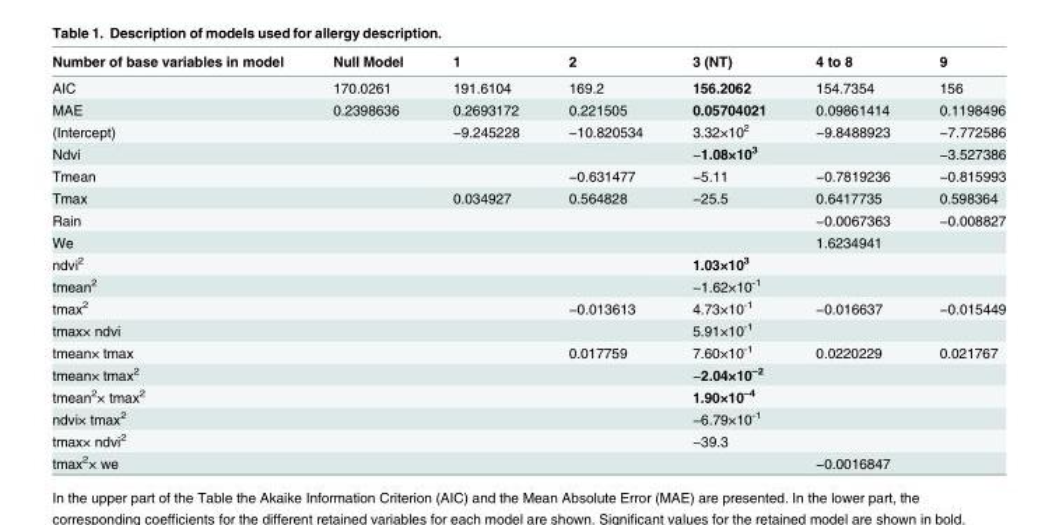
<table><thead><tr><td>Number of base variables in model</td><td>Null Model</td><td>1</td><td>2</td><td>3 (NT)</td><td>4 to 8</td><td>9</td></tr></thead><tbody><tr><td>AIC</td><td>170.0261</td><td>191.6104</td><td>169.2</td><td>156.2062</td><td>154.7354</td><td>156</td></tr><tr><td>MAE</td><td>0.2398636</td><td>0.2693172</td><td>0.221505</td><td>0.05704021</td><td>0.09861414</td><td>0.1198496</td></tr><tr><td>(Intercept)</td><td></td><td>−9.245228</td><td>−10.820534</td><td>3.32×10<sup>2</sup></td><td>−9.8488923</td><td>−7.772586</td></tr><tr><td>Ndvi</td><td></td><td></td><td></td><td>−1.08×10<sup>3</sup></td><td></td><td>−3.527386</td></tr><tr><td>Tmean</td><td></td><td></td><td>−0.631477</td><td>−5.11</td><td>−0.7819236</td><td>−0.815993</td></tr><tr><td>Tmax</td><td></td><td>0.034927</td><td>0.564828</td><td>−25.5</td><td>0.6417735</td><td>0.598364</td></tr><tr><td>Rain</td><td></td><td></td><td></td><td></td><td>−0.0067363</td><td>−0.008827</td></tr><tr><td>We</td><td></td><td></td><td></td><td></td><td>1.6234941</td><td></td></tr><tr><td>ndvi<sup>2</sup></td><td></td><td></td><td></td><td>1.03×10<sup>3</sup></td><td></td><td></td></tr><tr><td>tmean<sup>2</sup></td><td></td><td></td><td></td><td>−1.62×10<sup>-1</sup></td><td></td><td></td></tr><tr><td>tmax<sup>2</sup></td><td></td><td></td><td>−0.013613</td><td>4.73×10<sup>-1</sup></td><td>−0.016637</td><td>−0.015449</td></tr><tr><td>tmax× ndvi</td><td></td><td></td><td></td><td>5.91×10<sup>-1</sup></td><td></td><td></td></tr><tr><td>tmean× tmax</td><td></td><td></td><td>0.017759</td><td>7.60×10<sup>-1</sup></td><td>0.0220229</td><td>0.021767</td></tr><tr><td>tmean× tmax<sup>2</sup></td><td></td><td></td><td></td><td>−2.04×10<sup>–2</sup></td><td></td><td></td></tr><tr><td>tmean<sup>2</sup>× tmax<sup>2</sup></td><td></td><td></td><td></td><td>1.90×10<sup>–4</sup></td><td></td><td></td></tr><tr><td>ndvi× tmax<sup>2</sup></td><td></td><td></td><td></td><td>−6.79×10<sup>-1</sup></td><td></td><td></td></tr><tr><td>tmax× ndvi<sup>2</sup></td><td></td><td></td><td></td><td>−39.3</td><td></td><td></td></tr><tr><td>tmax<sup>2</sup>× we</td><td></td><td></td><td></td><td></td><td>−0.0016847</td><td></td></tr></tbody></table>